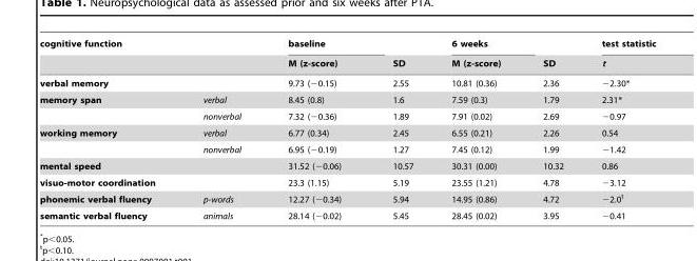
<table><thead><tr><td rowspan="2">cognitive function</td><td rowspan="2"></td><td rowspan="2">baseline M (z-score)</td><td rowspan="2">SD</td><td rowspan="2">6 weeks M (z-score)</td><td rowspan="2">SD</td><td rowspan="2">test statistic t</td></tr><tr></tr></thead><tbody><tr><td>verbal memory</td><td></td><td>9.73 (−0.15)</td><td>2.55</td><td>10.81 (0.36)</td><td>2.36</td><td>−2.30*</td></tr><tr><td rowspan="2">memory span</td><td>verbal</td><td>8.45 (0.8)</td><td>1.6</td><td>7.59 (0.3)</td><td>1.79</td><td>2.31*</td></tr><tr><td>nonverbal</td><td>7.32 (−0.36)</td><td>1.89</td><td>7.91 (0.02)</td><td>2.69</td><td>−0.97</td></tr><tr><td rowspan="2">working memory</td><td>verbal</td><td>6.77 (0.34)</td><td>2.45</td><td>6.55 (0.21)</td><td>2.26</td><td>0.54</td></tr><tr><td>nonverbal</td><td>6.95 (−0.19)</td><td>1.27</td><td>7.45 (0.12)</td><td>1.99</td><td>−1.42</td></tr><tr><td>mental speed</td><td></td><td>31.52 (−0.06)</td><td>10.57</td><td>30.31 (0.00)</td><td>10.32</td><td>0.86</td></tr><tr><td>visuo-motor coordination</td><td></td><td>23.3 (1.15)</td><td>5.19</td><td>23.55 (1.21)</td><td>4.78</td><td>−3.12</td></tr><tr><td>phonemic verbal fluency</td><td>p-words</td><td>12.27 (−0.34)</td><td>5.94</td><td>14.95 (0.86)</td><td>4.72</td><td>−2.0<sup>t</sup></td></tr><tr><td>semantic verbal fluency</td><td>animals</td><td>28.14 (−0.02)</td><td>5.45</td><td>28.45 (0.02)</td><td>3.95</td><td>−0.41</td></tr></tbody></table>